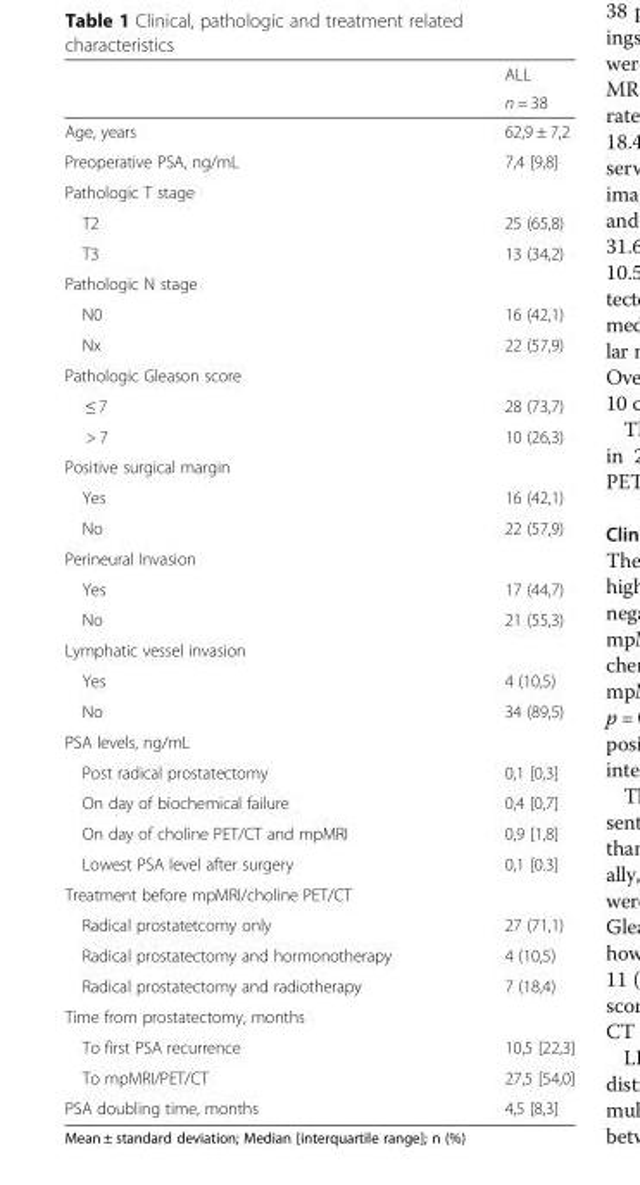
<table><thead><tr><td rowspan="2"></td><td rowspan="2">ALL n = 38</td></tr><tr></tr></thead><tbody><tr><td>Age, years</td><td>62,9 ± 7,2</td></tr><tr><td>Preoperative PSA, ng/mL</td><td>7,4 [9,8]</td></tr><tr><td colspan="2">Pathologic T stage</td></tr><tr><td>T2</td><td>25 (65,8)</td></tr><tr><td>T3</td><td>13 (34,2)</td></tr><tr><td colspan="2">Pathologic N stage</td></tr><tr><td>N0</td><td>16 (42,1)</td></tr><tr><td>Nx</td><td>22 (57,9)</td></tr><tr><td colspan="2">Pathologic Gleason score</td></tr><tr><td>≤ 7</td><td>28 (73,7)</td></tr><tr><td>&gt; 7</td><td>10 (26,3)</td></tr><tr><td colspan="2">Positive surgical margin</td></tr><tr><td>Yes</td><td>16 (42,1)</td></tr><tr><td>No</td><td>22 (57,9)</td></tr><tr><td colspan="2">Perineural Invasion</td></tr><tr><td>Yes</td><td>17 (44,7)</td></tr><tr><td>No</td><td>21 (55,3)</td></tr><tr><td colspan="2">Lymphatic vessel invasion</td></tr><tr><td>Yes</td><td>4 (10,5)</td></tr><tr><td>No</td><td>34 (89,5)</td></tr><tr><td colspan="2">PSA levels, ng/mL</td></tr><tr><td>Post radical prostatectomy</td><td>0,1 [0,3]</td></tr><tr><td>On day of biochemical failure</td><td>0,4 [0,7]</td></tr><tr><td>On day of choline PET/CT and mpMRI</td><td>0,9 [1,8]</td></tr><tr><td>Lowest PSA level after surgery</td><td>0,1 [0.3]</td></tr><tr><td colspan="2">Treatment before mpMRI/choline PET/CT</td></tr><tr><td>Radical prostatetcomy only</td><td>27 (71,1)</td></tr><tr><td>Radical prostatectomy and hormonotherapy</td><td>4 (10,5)</td></tr><tr><td>Radical prostatectomy and radiotherapy</td><td>7 (18,4)</td></tr><tr><td colspan="2">Time from prostatectomy, months</td></tr><tr><td>To first PSA recurrence</td><td>10,5 [22,3]</td></tr><tr><td>To mpMRI/PET/CT</td><td>27,5 [54,0]</td></tr><tr><td>PSA doubling time, months</td><td>4,5 [8,3]</td></tr></tbody></table>